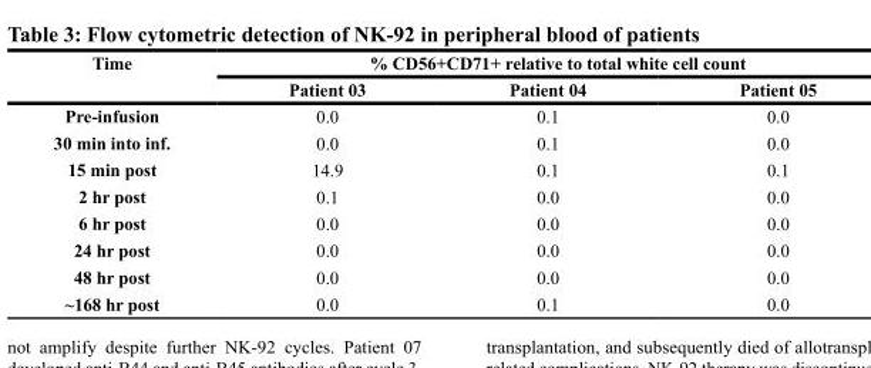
<table><thead><tr><td rowspan="2">Time</td><td colspan="3">% CD56+CD71+ relative to total white cell count</td></tr><tr><td>Patient 03</td><td>Patient 04</td><td>Patient 05</td></tr></thead><tbody><tr><td>Pre-infusion</td><td>0.0</td><td>0.1</td><td>0.0</td></tr><tr><td>30 min into inf.</td><td>0.0</td><td>0.1</td><td>0.0</td></tr><tr><td>15 min post</td><td>14.9</td><td>0.1</td><td>0.1</td></tr><tr><td>2 hr post</td><td>0.1</td><td>0.0</td><td>0.0</td></tr><tr><td>6 hr post</td><td>0.0</td><td>0.0</td><td>0.0</td></tr><tr><td>24 hr post</td><td>0.0</td><td>0.0</td><td>0.0</td></tr><tr><td>48 hr post</td><td>0.0</td><td>0.0</td><td>0.0</td></tr><tr><td>~168 hr post</td><td>0.0</td><td>0.1</td><td>0.0</td></tr></tbody></table>